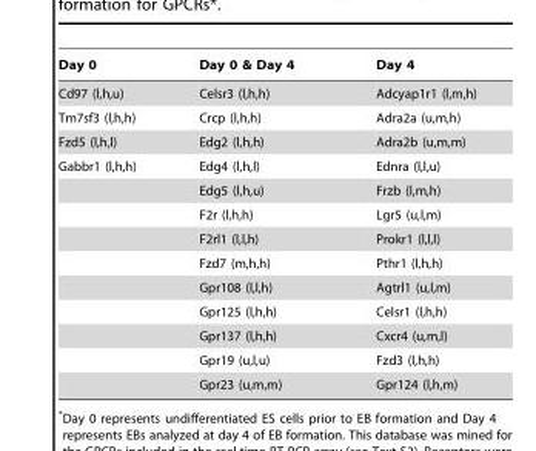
<table><thead><tr><td>Day 0</td><td>Day 0 &amp; Day 4</td><td>Day 4</td></tr></thead><tbody><tr><td>Cd97 (l,h,u)</td><td>Celsr3 (l,h,h)</td><td>Adcyap1r1 (l,m,h)</td></tr><tr><td>Tm7sf3 (l,h,h)</td><td>Crcp (l,h,h)</td><td>Adra2a (u,m,h)</td></tr><tr><td>Fzd5 (l,h,l)</td><td>Edg2 (l,h,h)</td><td>Adra2b (u,m,m)</td></tr><tr><td rowspan="10">Gabbr1 (l,h,h)</td><td>Edg4 (l,h,l)</td><td>Ednra (l,l,u)</td></tr><tr><td>Edg5 (l,h,u)</td><td>Frzb (l,m,h)</td></tr><tr><td>F2r (l,h,h)</td><td>Lgr5 (u,l,m)</td></tr><tr><td>F2rl1 (l,l,h)</td><td>Prokr1 (l,l,l)</td></tr><tr><td>Fzd7 (m,h,h)</td><td>Pthr1 (l,h,h)</td></tr><tr><td>Gpr108 (l,l,h)</td><td>Agtrl1 (u,l,m)</td></tr><tr><td>Gpr125 (l,h,h)</td><td>Celsr1 (l,h,h)</td></tr><tr><td>Gpr137 (l,h,h)</td><td>Cxcr4 (u,m,l)</td></tr><tr><td>Gpr19 (u,l,u)</td><td>Fzd3 (l,h,h)</td></tr><tr><td>Gpr23 (u,m,m)</td><td>Gpr124 (l,h,m)</td></tr></tbody></table>